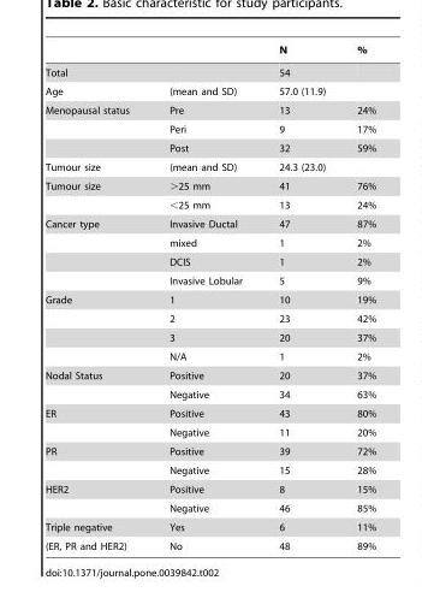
<table><thead><tr><td></td><td></td><td>N</td><td>%</td></tr></thead><tbody><tr><td>Total</td><td></td><td>54</td><td></td></tr><tr><td>Age</td><td>(mean and SD)</td><td>57.0 (11.9)</td><td></td></tr><tr><td rowspan="3">Menopausal status</td><td>Pre</td><td>13</td><td>24%</td></tr><tr><td>Peri</td><td>9</td><td>17%</td></tr><tr><td>Post</td><td>32</td><td>59%</td></tr><tr><td>Tumour size</td><td>(mean and SD)</td><td>24.3 (23.0)</td><td></td></tr><tr><td rowspan="2">Tumour size</td><td>&gt;25 mm</td><td>41</td><td>76%</td></tr><tr><td>&lt;25 mm</td><td>13</td><td>24%</td></tr><tr><td rowspan="4">Cancer type</td><td>Invasive Ductal</td><td>47</td><td>87%</td></tr><tr><td>mixed</td><td>1</td><td>2%</td></tr><tr><td>DCIS</td><td>1</td><td>2%</td></tr><tr><td>Invasive Lobular</td><td>5</td><td>9%</td></tr><tr><td rowspan="4">Grade</td><td>1</td><td>10</td><td>19%</td></tr><tr><td>2</td><td>23</td><td>42%</td></tr><tr><td>3</td><td>20</td><td>37%</td></tr><tr><td>N/A</td><td>1</td><td>2%</td></tr><tr><td rowspan="2">Nodal Status</td><td>Positive</td><td>20</td><td>37%</td></tr><tr><td>Negative</td><td>34</td><td>63%</td></tr><tr><td rowspan="2">ER</td><td>Positive</td><td>43</td><td>80%</td></tr><tr><td>Negative</td><td>11</td><td>20%</td></tr><tr><td rowspan="2">PR</td><td>Positive</td><td>39</td><td>72%</td></tr><tr><td>Negative</td><td>15</td><td>28%</td></tr><tr><td rowspan="2">HER2</td><td>Positive</td><td>8</td><td>15%</td></tr><tr><td>Negative</td><td>46</td><td>85%</td></tr><tr><td>Triple negative</td><td>Yes</td><td>6</td><td>11%</td></tr><tr><td>(ER, PR and HER2)</td><td>No</td><td>48</td><td>89%</td></tr></tbody></table>